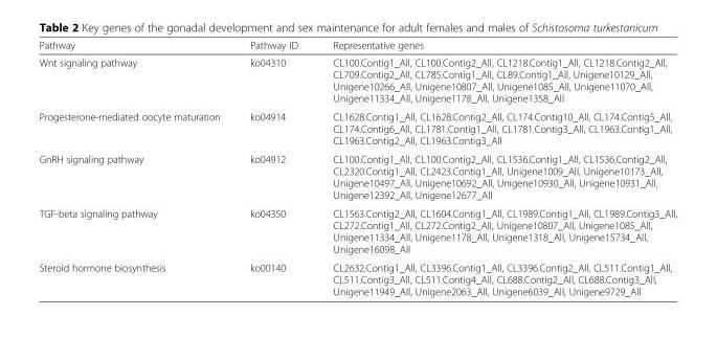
<table><thead><tr><td>Pathway</td><td>Pathway ID</td><td>Representative genes</td></tr></thead><tbody><tr><td>Wnt signaling pathway</td><td>ko04310</td><td>CL100.Contig1_All, CL100.Contig2_All, CL1218.Contig1_All, CL1218.Contig2_All, CL709.Contig2_All, CL785.Contig1_All, CL89.Contig1_All, Unigene10129_All, Unigene10266_All, Unigene10807_All, Unigene1085_All, Unigene11070_All, Unigene11334_All, Unigene1178_All, Unigene1358_All</td></tr><tr><td>Progesterone-mediated oocyte maturation</td><td>ko04914</td><td>CL1628.Contig1_All, CL1628.Contig2_All, CL174.Contig10_All, CL174.Contig5_All, CL174.Contig6_All, CL1781.Contig1_All, CL1781.Contig3_All, CL1963.Contig1_All, CL1963.Contig2_All, CL1963.Contig3_All</td></tr><tr><td>GnRH signaling pathway</td><td>ko04912</td><td>CL100.Contig1_All, CL100.Contig2_All, CL1536.Contig1_All, CL1536.Contig2_All, CL2320.Contig1_All, CL2423.Contig1_All, Unigene1009_All, Unigene10173_All, Unigene10497_All, Unigene10692_All, Unigene10930_All, Unigene10931_All, Unigene12392_All, Unigene12677_All</td></tr><tr><td>TGF-beta signaling pathway</td><td>ko04350</td><td>CL1563.Contig2_All, CL1604.Contig1_All, CL1989.Contig1_All, CL1989.Contig3_All, CL272.Contig1_All, CL272.Contig2_All, Unigene10807_All, Unigene1085_All, Unigene11334_All, Unigene1178_All, Unigene1318_All, Unigene15734_All, Unigene16098_All</td></tr><tr><td>Steroid hormone biosynthesis</td><td>ko00140</td><td>CL2632.Contig1_All, CL3396.Contig1_All, CL3396.Contig2_All, CL511.Contig1_All, CL511.Contig3_All, CL511.Contig4_All, CL688.Contig2_All, CL688.Contig3_All, Unigene11949_All, Unigene2063_All, Unigene6039_All, Unigene9729_All</td></tr></tbody></table>